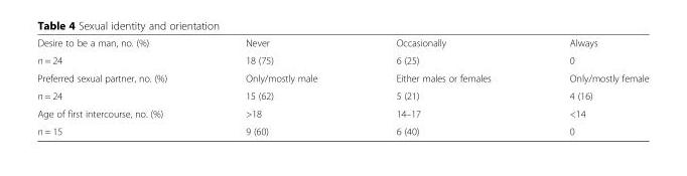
<table><tbody><tr><td>Desire to be a man, no. (%)</td><td>Never</td><td>Occasionally</td><td>Always</td></tr><tr><td>n = 24</td><td>18 (75)</td><td>6 (25)</td><td>0</td></tr><tr><td>Preferred sexual partner, no. (%)</td><td>Only/mostly male</td><td>Either males or females</td><td>Only/mostly female</td></tr><tr><td>n = 24</td><td>15 (62)</td><td>5 (21)</td><td>4 (16)</td></tr><tr><td>Age of first intercourse, no. (%)</td><td>&gt;18</td><td>14–17</td><td>&lt;14</td></tr><tr><td>n = 15</td><td>9 (60)</td><td>6 (40)</td><td>0</td></tr></tbody></table>